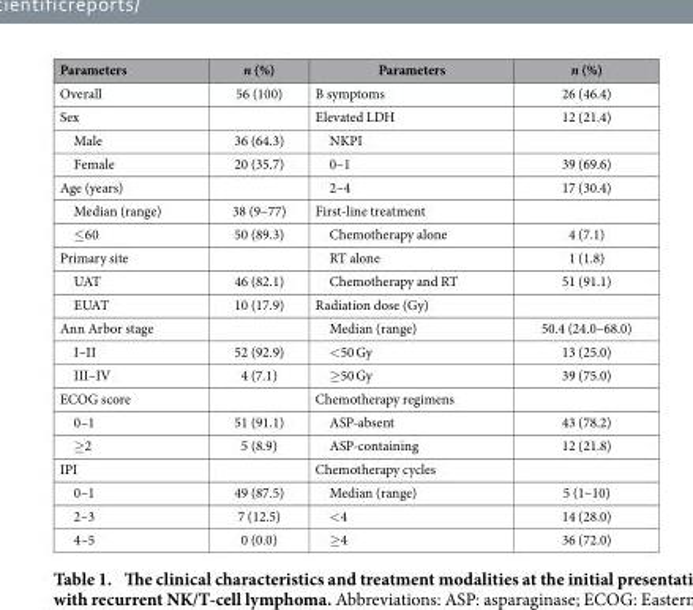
<table><thead><tr><td>Parameters</td><td>n (%)</td><td>Parameters</td><td>n (%)</td></tr></thead><tbody><tr><td>Overall</td><td>56 (100)</td><td>B symptoms</td><td>26 (46.4)</td></tr><tr><td>Sex</td><td></td><td>Elevated LDH</td><td>12 (21.4)</td></tr><tr><td>Male</td><td>36 (64.3)</td><td>NKPI</td><td></td></tr><tr><td>Female</td><td>20 (35.7)</td><td>0–1</td><td>39 (69.6)</td></tr><tr><td>Age (years)</td><td></td><td>2–4</td><td>17 (30.4)</td></tr><tr><td>Median (range)</td><td>38 (9–77)</td><td>First-line treatment</td><td></td></tr><tr><td>≤60</td><td>50 (89.3)</td><td>Chemotherapy alone</td><td>4 (7.1)</td></tr><tr><td>Primary site</td><td></td><td>RT alone</td><td>1 (1.8)</td></tr><tr><td>UAT</td><td>46 (82.1)</td><td>Chemotherapy and RT</td><td>51 (91.1)</td></tr><tr><td>EUAT</td><td>10 (17.9)</td><td>Radiation dose (Gy)</td><td></td></tr><tr><td>Ann Arbor stage</td><td></td><td>Median (range)</td><td>50.4 (24.0–68.0)</td></tr><tr><td>I–II</td><td>52 (92.9)</td><td>&lt;50 Gy</td><td>13 (25.0)</td></tr><tr><td>III–IV</td><td>4 (7.1)</td><td>≥50 Gy</td><td>39 (75.0)</td></tr><tr><td>ECOG score</td><td></td><td>Chemotherapy regimens</td><td></td></tr><tr><td>0–1</td><td>51 (91.1)</td><td>ASP-absent</td><td>43 (78.2)</td></tr><tr><td>≥2</td><td>5 (8.9)</td><td>ASP-containing</td><td>12 (21.8)</td></tr><tr><td>IPI</td><td></td><td>Chemotherapy cycles</td><td></td></tr><tr><td>0–1</td><td>49 (87.5)</td><td>Median (range)</td><td>5 (1–10)</td></tr><tr><td>2–3</td><td>7 (12.5)</td><td>&lt;4</td><td>14 (28.0)</td></tr><tr><td>4–5</td><td>0 (0.0)</td><td>≥4</td><td>36 (72.0)</td></tr></tbody></table>